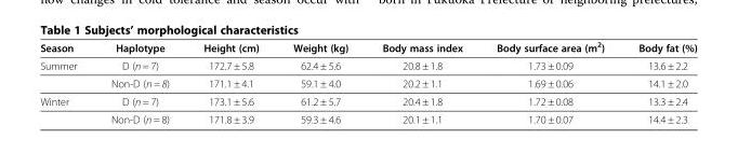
<table><thead><tr><td>Season</td><td>Haplotype</td><td>Height (cm)</td><td>Weight (kg)</td><td>Body mass index</td><td>Body surface area (m<sup>2</sup>)</td><td>Body fat (%)</td></tr></thead><tbody><tr><td rowspan="2">Summer</td><td>D (n = 7)</td><td>172.7 ± 5.8</td><td>62.4 ± 5.6</td><td>20.8 ± 1.8</td><td>1.73 ± 0.09</td><td>13.6 ± 2.2</td></tr><tr><td>Non-D (n = 8)</td><td>171.1 ± 4.1</td><td>59.1 ± 4.0</td><td>20.2 ± 1.1</td><td>1.69 ± 0.06</td><td>14.1 ± 2.0</td></tr><tr><td rowspan="2">Winter</td><td>D (n = 7)</td><td>173.1 ± 5.6</td><td>61.2 ± 5.7</td><td>20.4 ± 1.8</td><td>1.72 ± 0.08</td><td>13.3 ± 2.4</td></tr><tr><td>Non-D (n = 8)</td><td>171.8 ± 3.9</td><td>59.3 ± 4.6</td><td>20.1 ± 1.1</td><td>1.70 ± 0.07</td><td>14.4 ± 2.3</td></tr></tbody></table>